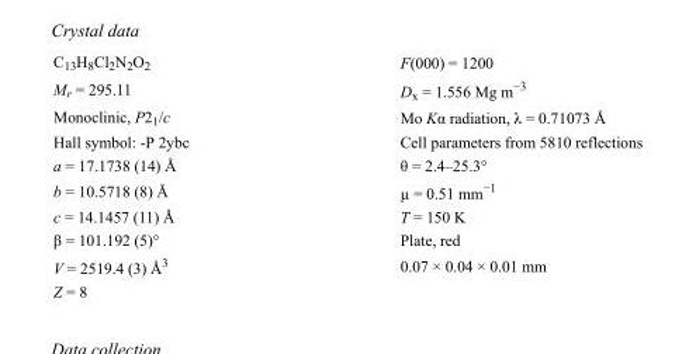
<table><tbody><tr><td>C<sub>13</sub>H<sub>8</sub>Cl<sub>2</sub>N<sub>2</sub>O<sub>2</sub></td><td>F(000) = 1200</td></tr><tr><td>M<sub>r</sub> = 295.11</td><td>D<sub>x</sub> = 1.556 Mg m<sup>−3</sup></td></tr><tr><td>Monoclinic, P2<sub>1</sub>/c</td><td>Mo Kα radiation, λ = 0.71073 Å</td></tr><tr><td>Hall symbol: -P 2ybc</td><td>Cell parameters from 5810 reflections</td></tr><tr><td>a = 17.1738 (14) Å</td><td>θ = 2.4–25.3°</td></tr><tr><td>b = 10.5718 (8) Å</td><td>µ = 0.51 mm<sup>−1</sup></td></tr><tr><td>c = 14.1457 (11) Å</td><td>T = 150 K</td></tr><tr><td>β = 101.192 (5)°</td><td>Plate, red</td></tr><tr><td>V = 2519.4 (3) Å<sup>3</sup></td><td>0.07 × 0.04 × 0.01 mm</td></tr><tr><td>Z = 8</td><td></td></tr></tbody></table>